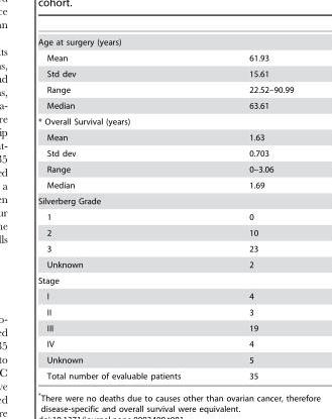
<table><tbody><tr><td colspan="2">Age at surgery (years)</td></tr><tr><td>Mean</td><td>61.93</td></tr><tr><td>Std dev</td><td>15.61</td></tr><tr><td>Range</td><td>22.52–90.99</td></tr><tr><td>Median</td><td>63.61</td></tr><tr><td colspan="2">* Overall Survival (years)</td></tr><tr><td>Mean</td><td>1.63</td></tr><tr><td>Std dev</td><td>0.703</td></tr><tr><td>Range</td><td>0–3.06</td></tr><tr><td>Median</td><td>1.69</td></tr><tr><td colspan="2">Silverberg Grade</td></tr><tr><td>1</td><td>0</td></tr><tr><td>2</td><td>10</td></tr><tr><td>3</td><td>23</td></tr><tr><td>Unknown</td><td>2</td></tr><tr><td colspan="2">Stage</td></tr><tr><td>I</td><td>4</td></tr><tr><td>II</td><td>3</td></tr><tr><td>III</td><td>19</td></tr><tr><td>IV</td><td>4</td></tr><tr><td>Unknown</td><td>5</td></tr><tr><td>Total number of evaluable patients</td><td>35</td></tr></tbody></table>